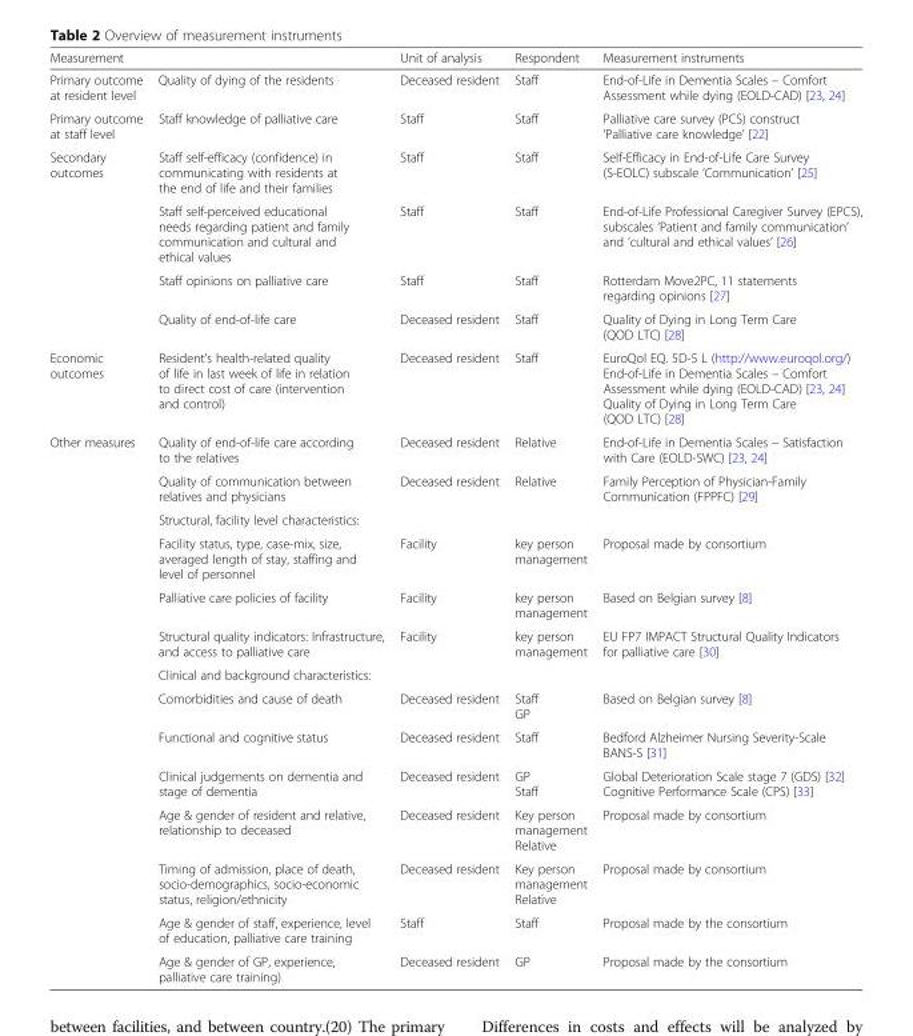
<table><thead><tr><td colspan="2">Measurement</td><td rowspan="2">Unit of analysis Deceased resident</td><td rowspan="2">Respondent Staff</td><td rowspan="2">Measurement instruments End-of-Life in Dementia Scales – Comfort Assessment while dying (EOLD-CAD) [23, 24]</td></tr><tr><td>Primary outcome at resident level</td><td>Quality of dying of the residents</td></tr></thead><tbody><tr><td>Primary outcome at staff level</td><td>Staff knowledge of palliative care</td><td>Staff</td><td>Staff</td><td>Palliative care survey (PCS) construct ‘Palliative care knowledge’ [22]</td></tr><tr><td rowspan="4">Secondary outcomes</td><td>Staff self-efficacy (confidence) in communicating with residents at the end of life and their families</td><td>Staff</td><td>Staff</td><td>Self-Efficacy in End-of-Life Care Survey (S-EOLC) subscale ‘Communication’ [25]</td></tr><tr><td>Staff self-perceived educational needs regarding patient and family communication and cultural and ethical values</td><td>Staff</td><td>Staff</td><td>End-of-Life Professional Caregiver Survey (EPCS), subscales ‘Patient and family communication’ and ‘cultural and ethical values’ [26]</td></tr><tr><td>Staff opinions on palliative care</td><td>Staff</td><td>Staff</td><td>Rotterdam Move2PC, 11 statements regarding opinions [27]</td></tr><tr><td>Quality of end-of-life care</td><td>Deceased resident</td><td>Staff</td><td>Quality of Dying in Long Term Care (QOD LTC) [28]</td></tr><tr><td>Economic outcomes</td><td>Resident’s health-related quality of life in last week of life in relation to direct cost of care (intervention and control)</td><td>Deceased resident</td><td>Staff</td><td>EuroQol EQ. 5D-5 L (http://www.euroqol.org/) End-of-Life in Dementia Scales – Comfort Assessment while dying (EOLD-CAD) [23, 24] Quality of Dying in Long Term Care (QOD LTC) [28]</td></tr><tr><td rowspan="14">Other measures</td><td>Quality of end-of-life care according to the relatives</td><td>Deceased resident</td><td>Relative</td><td>End-of-Life in Dementia Scales – Satisfaction with Care (EOLD-SWC) [23, 24]</td></tr><tr><td>Quality of communication between relatives and physicians</td><td>Deceased resident</td><td>Relative</td><td>Family Perception of Physician-Family Communication (FPPFC) [29]</td></tr><tr><td colspan="4">Structural, facility level characteristics:</td></tr><tr><td>Facility status, type, case-mix, size, averaged length of stay, staffing and level of personnel</td><td>Facility</td><td>key person management</td><td>Proposal made by consortium</td></tr><tr><td>Palliative care policies of facility</td><td>Facility</td><td>key person management</td><td>Based on Belgian survey [8]</td></tr><tr><td>Structural quality indicators: Infrastructure, and access to palliative care</td><td>Facility</td><td>key person management</td><td>EU FP7 IMPACT Structural Quality Indicators for palliative care [30]</td></tr><tr><td colspan="4">Clinical and background characteristics:</td></tr><tr><td>Comorbidities and cause of death</td><td>Deceased resident</td><td>Staff GP</td><td>Based on Belgian survey [8]</td></tr><tr><td>Functional and cognitive status</td><td>Deceased resident</td><td>Staff</td><td>Bedford Alzheimer Nursing Severity-Scale BANS-S [31]</td></tr><tr><td>Clinical judgements on dementia and stage of dementia</td><td>Deceased resident</td><td>GP Staff</td><td>Global Deterioration Scale stage 7 (GDS) [32] Cognitive Performance Scale (CPS) [33]</td></tr><tr><td>Age &amp; gender of resident and relative, relationship to deceased</td><td>Deceased resident</td><td>Key person management Relative</td><td>Proposal made by consortium</td></tr><tr><td>Timing of admission, place of death, socio-demographics, socio-economic status, religion/ethnicity</td><td>Deceased resident</td><td>Key person management Relative</td><td>Proposal made by consortium</td></tr><tr><td>Age &amp; gender of staff, experience, level of education, palliative care training</td><td>Staff</td><td>Staff</td><td>Proposal made by the consortium</td></tr><tr><td>Age &amp; gender of GP, experience, palliative care training)</td><td>Deceased resident</td><td>GP</td><td>Proposal made by the consortium</td></tr></tbody></table>